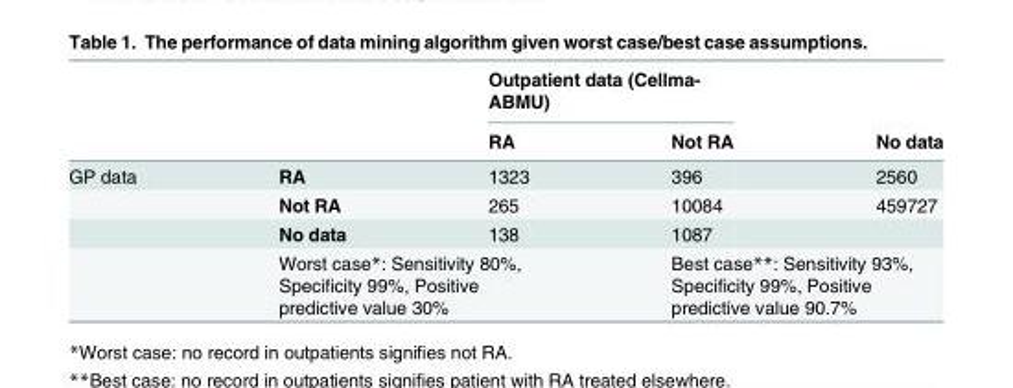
<table><thead><tr><td rowspan="2"></td><td rowspan="2"></td><td colspan="2">Outpatient data (Cellma- ABMU)</td><td rowspan="2">No data</td></tr><tr><td>RA</td><td>Not RA</td></tr></thead><tbody><tr><td rowspan="4">GP data</td><td>RA</td><td>1323</td><td>396</td><td>2560</td></tr><tr><td>Not RA</td><td>265</td><td>10084</td><td>459727</td></tr><tr><td>No data</td><td>138</td><td>1087</td><td></td></tr><tr><td colspan="2">Worst case*: Sensitivity 80%, Specificity 99%, Positive predictive value 30%</td><td colspan="2">Best case**: Sensitivity 93%, Specificity 99%, Positive predictive value 90.7%</td></tr></tbody></table>